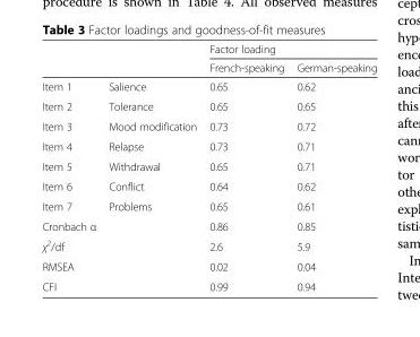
<table><thead><tr><td rowspan="2"></td><td rowspan="2"></td><td colspan="2">Factor loading</td></tr><tr><td>French-speaking</td><td>German-speaking</td></tr></thead><tbody><tr><td>Item 1</td><td>Salience</td><td>0.65</td><td>0.62</td></tr><tr><td>Item 2</td><td>Tolerance</td><td>0.65</td><td>0.65</td></tr><tr><td>Item 3</td><td>Mood modification</td><td>0.73</td><td>0.72</td></tr><tr><td>Item 4</td><td>Relapse</td><td>0.73</td><td>0.71</td></tr><tr><td>Item 5</td><td>Withdrawal</td><td>0.65</td><td>0.71</td></tr><tr><td>Item 6</td><td>Conflict</td><td>0.64</td><td>0.62</td></tr><tr><td>Item 7</td><td>Problems</td><td>0.65</td><td>0.61</td></tr><tr><td>Cronbach α</td><td></td><td>0.86</td><td>0.85</td></tr><tr><td>χ<sup>2</sup>/df</td><td></td><td>2.6</td><td>5.9</td></tr><tr><td>RMSEA</td><td></td><td>0.02</td><td>0.04</td></tr><tr><td>CFI</td><td></td><td>0.99</td><td>0.94</td></tr></tbody></table>